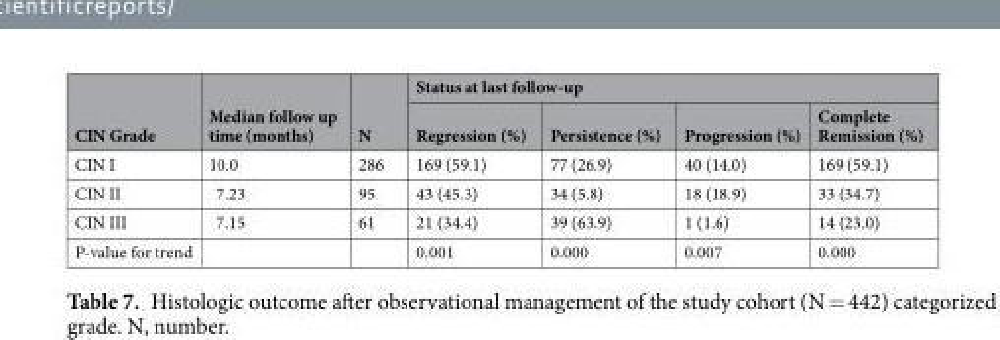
<table><thead><tr><td rowspan="2">CIN Grade</td><td rowspan="2">Median follow up time (months)</td><td rowspan="2">N</td><td colspan="4">Status at last follow-up</td></tr><tr><td>Regression (%)</td><td>Persistence (%)</td><td>Progression (%)</td><td>Complete Remission (%)</td></tr></thead><tbody><tr><td>CIN I</td><td>10.0</td><td>286</td><td>169 (59.1)</td><td>77 (26.9)</td><td>40 (14.0)</td><td>169 (59.1)</td></tr><tr><td>CIN II</td><td>7.23</td><td>95</td><td>43 (45.3)</td><td>34 (5.8)</td><td>18 (18.9)</td><td>33 (34.7)</td></tr><tr><td>CIN III</td><td>7.15</td><td>61</td><td>21 (34.4)</td><td>39 (63.9)</td><td>1 (1.6)</td><td>14 (23.0)</td></tr><tr><td>P-value for trend</td><td></td><td></td><td>0.001</td><td>0.000</td><td>0.007</td><td>0.000</td></tr></tbody></table>